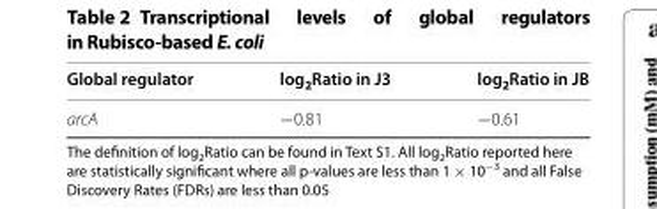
<table><thead><tr><td>Global regulator</td><td>log<sub>2</sub>Ratio in J3</td><td>log<sub>2</sub>Ratio in JB</td></tr></thead><tbody><tr><td>arcA</td><td>−0.81</td><td>−0.61</td></tr></tbody></table>